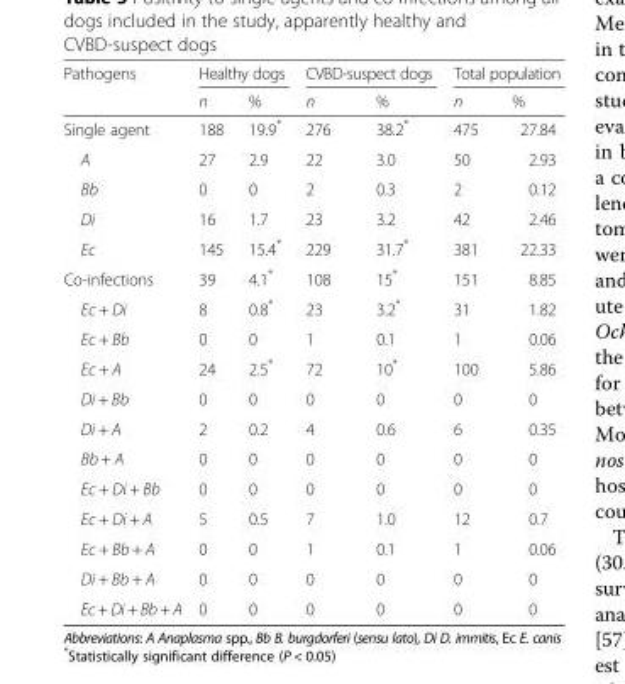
<table><thead><tr><td rowspan="2">Pathogens</td><td colspan="2">Healthy dogs</td><td colspan="2">CVBD-suspect dogs</td><td colspan="2">Total population</td></tr><tr><td>n</td><td>%</td><td>n</td><td>%</td><td>n</td><td>%</td></tr></thead><tbody><tr><td>Single agent</td><td>188</td><td>19.9*</td><td>276</td><td>38.2*</td><td>475</td><td>27.84</td></tr><tr><td>A</td><td>27</td><td>2.9</td><td>22</td><td>3.0</td><td>50</td><td>2.93</td></tr><tr><td>Bb</td><td>0</td><td>0</td><td>2</td><td>0.3</td><td>2</td><td>0.12</td></tr><tr><td>Di</td><td>16</td><td>1.7</td><td>23</td><td>3.2</td><td>42</td><td>2.46</td></tr><tr><td>Ec</td><td>145</td><td>15.4*</td><td>229</td><td>31.7*</td><td>381</td><td>22.33</td></tr><tr><td>Co-infections</td><td>39</td><td>4.1*</td><td>108</td><td>15*</td><td>151</td><td>8.85</td></tr><tr><td>Ec + Di</td><td>8</td><td>0.8*</td><td>23</td><td>3.2*</td><td>31</td><td>1.82</td></tr><tr><td>Ec + Bb</td><td>0</td><td>0</td><td>1</td><td>0.1</td><td>1</td><td>0.06</td></tr><tr><td>Ec + A</td><td>24</td><td>2.5*</td><td>72</td><td>10*</td><td>100</td><td>5.86</td></tr><tr><td>Di + Bb</td><td>0</td><td>0</td><td>0</td><td>0</td><td>0</td><td>0</td></tr><tr><td>Di + A</td><td>2</td><td>0.2</td><td>4</td><td>0.6</td><td>6</td><td>0.35</td></tr><tr><td>Bb + A</td><td>0</td><td>0</td><td>0</td><td>0</td><td>0</td><td>0</td></tr><tr><td>Ec + Di + Bb</td><td>0</td><td>0</td><td>0</td><td>0</td><td>0</td><td>0</td></tr><tr><td>Ec + Di + A</td><td>5</td><td>0.5</td><td>7</td><td>1.0</td><td>12</td><td>0.7</td></tr><tr><td>Ec + Bb + A</td><td>0</td><td>0</td><td>1</td><td>0.1</td><td>1</td><td>0.06</td></tr><tr><td>Di + Bb + A</td><td>0</td><td>0</td><td>0</td><td>0</td><td>0</td><td>0</td></tr><tr><td>Ec + Di + Bb + A</td><td>0</td><td>0</td><td>0</td><td>0</td><td>0</td><td>0</td></tr></tbody></table>